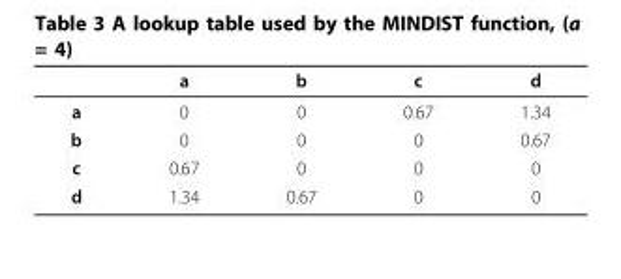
<table><thead><tr><td></td><td>a</td><td>b</td><td>c</td><td>d</td></tr></thead><tbody><tr><td>a</td><td>0</td><td>0</td><td>0.67</td><td>1.34</td></tr><tr><td>b</td><td>0</td><td>0</td><td>0</td><td>0.67</td></tr><tr><td>c</td><td>0.67</td><td>0</td><td>0</td><td>0</td></tr><tr><td>d</td><td>1.34</td><td>0.67</td><td>0</td><td>0</td></tr></tbody></table>